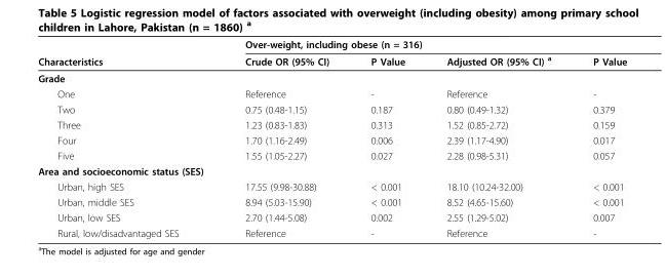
<table><thead><tr><td rowspan="2">Characteristics</td><td colspan="4">Over-weight, including obese (n = 316)</td></tr><tr><td>Crude OR (95% CI)</td><td>P Value</td><td>Adjusted OR (95% CI) <sup>a</sup></td><td>P Value</td></tr></thead><tbody><tr><td colspan="5">Grade</td></tr><tr><td>One</td><td>Reference</td><td>-</td><td>Reference</td><td>-</td></tr><tr><td>Two</td><td>0.75 (0.48-1.15)</td><td>0.187</td><td>0.80 (0.49-1.32)</td><td>0.379</td></tr><tr><td>Three</td><td>1.23 (0.83-1.83)</td><td>0.313</td><td>1.52 (0.85-2.72)</td><td>0.159</td></tr><tr><td>Four</td><td>1.70 (1.16-2.49)</td><td>0.006</td><td>2.39 (1.17-4.90)</td><td>0.017</td></tr><tr><td>Five</td><td>1.55 (1.05-2.27)</td><td>0.027</td><td>2.28 (0.98-5.31)</td><td>0.057</td></tr><tr><td colspan="5">Area and socioeconomic status (SES)</td></tr><tr><td>Urban, high SES</td><td>17.55 (9.98-30.88)</td><td>&lt; 0.001</td><td>18.10 (10.24-32.00)</td><td>&lt; 0.001</td></tr><tr><td>Urban, middle SES</td><td>8.94 (5.03-15.90)</td><td>&lt; 0.001</td><td>8.52 (4.65-15.60)</td><td>&lt; 0.001</td></tr><tr><td>Urban, low SES</td><td>2.70 (1.44-5.08)</td><td>0.002</td><td>2.55 (1.29-5.02)</td><td>0.007</td></tr><tr><td>Rural, low/disadvantaged SES</td><td>Reference</td><td>-</td><td>Reference</td><td>-</td></tr></tbody></table>